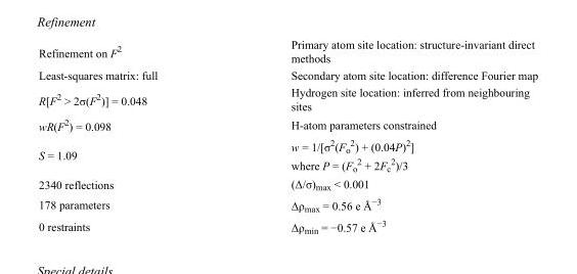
<table><tbody><tr><td>Refinement on F<sup>2</sup></td><td>Primary atom site location: structure-invariant direct methods</td></tr><tr><td>Least-squares matrix: full</td><td>Secondary atom site location: difference Fourier map</td></tr><tr><td>R[F<sup>2</sup> &gt; 2σ(F<sup>2</sup>)] = 0.048</td><td>Hydrogen site location: inferred from neighbouring sites</td></tr><tr><td>wR(F<sup>2</sup>) = 0.098</td><td>H-atom parameters constrained</td></tr><tr><td>S = 1.09</td><td>w = 1/[σ<sup>2</sup>(F<sub>o</sub> <sup>2</sup>) + (0.04P)<sup>2</sup>] where P = (F<sub>o</sub> <sup>2</sup> + 2F<sub>c</sub> <sup>2</sup>)/3</td></tr><tr><td>2340 reflections</td><td>(Δ/σ)<sub>max</sub> &lt; 0.001</td></tr><tr><td>178 parameters</td><td>Δρ<sub>max</sub> = 0.56 e Å<sup>−3</sup></td></tr><tr><td>0 restraints</td><td>Δρ<sub>min</sub> = −0.57 e Å<sup>−3</sup></td></tr></tbody></table>